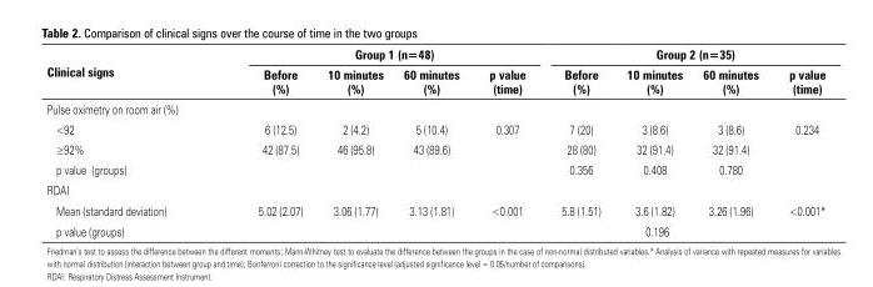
<table><thead><tr><td rowspan="2">Clinical signs</td><td colspan="4">Group 1 (n=48)</td><td colspan="4">Group 2 (n=35)</td></tr><tr><td>Before (%)</td><td>10 minutes (%)</td><td>60 minutes (%)</td><td>p value (time)</td><td>Before (%)</td><td>10 minutes (%)</td><td>60 minutes (%)</td><td>p value (time)</td></tr></thead><tbody><tr><td colspan="9">Pulse oximetry on room air (%)</td></tr><tr><td>&lt;92</td><td>6 (12.5)</td><td>2 (4.2)</td><td>5 (10.4)</td><td rowspan="2">0.307</td><td>7 (20)</td><td>3 (8.6)</td><td>3 (8.6)</td><td rowspan="2">0.234</td></tr><tr><td>≥92%</td><td>42 (87.5)</td><td>46 (95.8)</td><td>43 (89.6)</td><td>28 (80)</td><td>32 (91.4)</td><td>32 (91.4)</td></tr><tr><td>p value (groups)</td><td></td><td></td><td></td><td></td><td>0.356</td><td>0.408</td><td>0.780</td><td></td></tr><tr><td colspan="9">RDAI</td></tr><tr><td>Mean (standard deviation)</td><td>5.02 (2.07)</td><td>3.06 (1.77)</td><td>3.13 (1.81)</td><td>&lt;0.001</td><td>5.8 (1.51)</td><td>3.6 (1.82)</td><td>3.26 (1.96)</td><td>&lt;0.001*</td></tr><tr><td>p value (groups)</td><td></td><td></td><td></td><td></td><td colspan="3">0.196</td><td></td></tr></tbody></table>